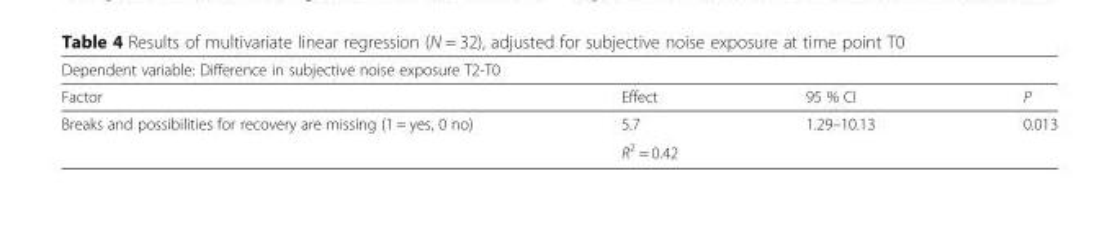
<table><thead><tr><td colspan="4">Dependent variable: Difference in subjective noise exposure T2-T0</td></tr><tr><td>Factor</td><td>Effect</td><td>95 % CI</td><td>P</td></tr></thead><tbody><tr><td rowspan="2">Breaks and possibilities for recovery are missing (1 = yes, 0 no)</td><td>5.7</td><td>1.29–10.13</td><td>0.013</td></tr><tr><td colspan="3">R<sup>2</sup> = 0.42</td></tr></tbody></table>